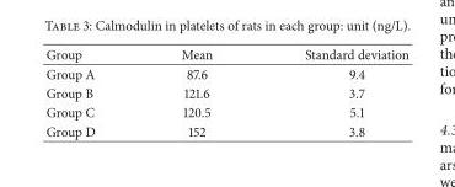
<table><thead><tr><td>Group</td><td>Mean</td><td>Standard deviation</td></tr></thead><tbody><tr><td>Group A</td><td>87.6</td><td>9.4</td></tr><tr><td>Group B</td><td>121.6</td><td>3.7</td></tr><tr><td>Group C</td><td>120.5</td><td>5.1</td></tr><tr><td>Group D</td><td>152</td><td>3.8</td></tr></tbody></table>